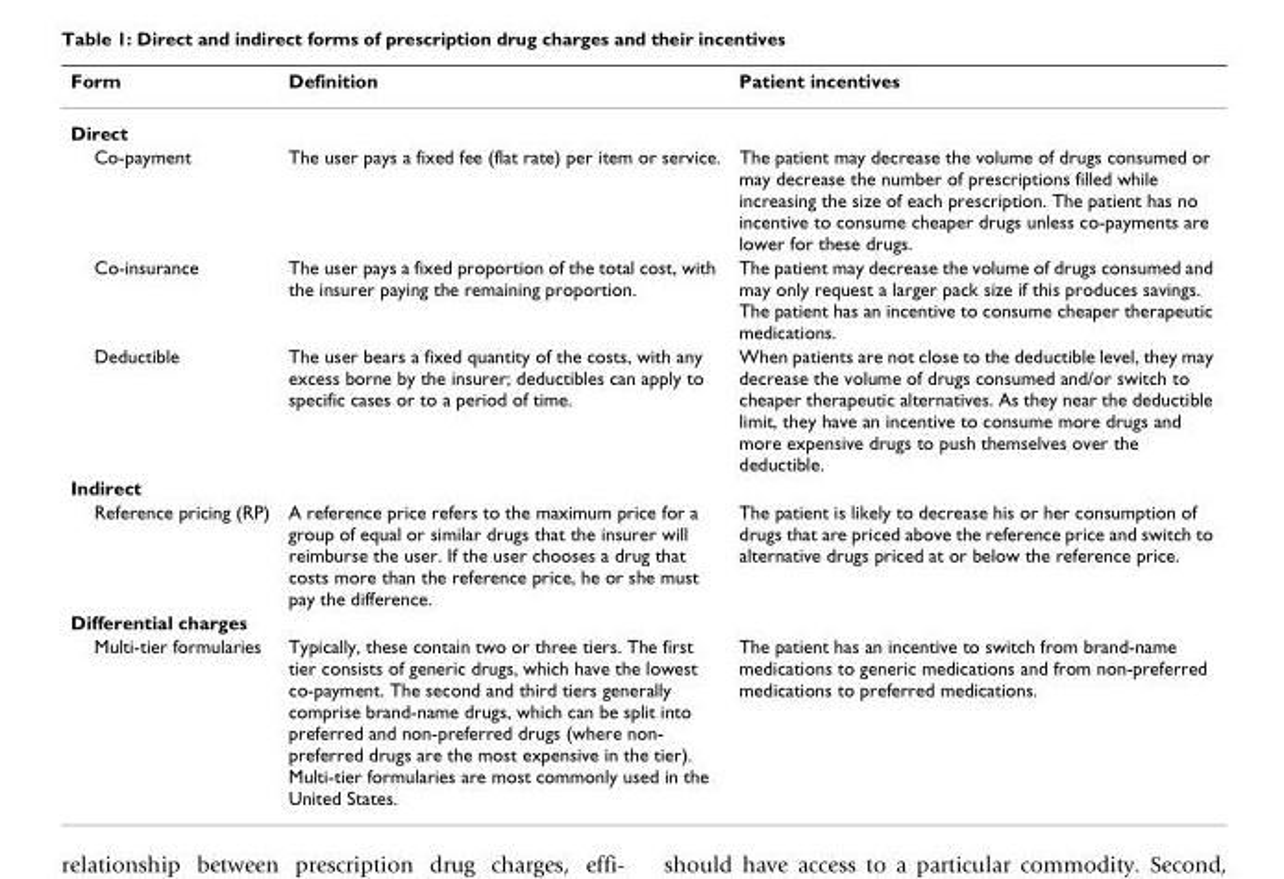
<table><thead><tr><td>Form</td><td>Definition</td><td>Patient incentives</td></tr></thead><tbody><tr><td colspan="3">Direct</td></tr><tr><td>Co-payment</td><td>The user pays a fixed fee (flat rate) per item or service.</td><td>The patient may decrease the volume of drugs consumed or may decrease the number of prescriptions filled while increasing the size of each prescription. The patient has no incentive to consume cheaper drugs unless co-payments are lower for these drugs.</td></tr><tr><td>Co-insurance</td><td>The user pays a fixed proportion of the total cost, with the insurer paying the remaining proportion.</td><td>The patient may decrease the volume of drugs consumed and may only request a larger pack size if this produces savings. The patient has an incentive to consume cheaper therapeutic medications.</td></tr><tr><td>Deductible</td><td>The user bears a fixed quantity of the costs, with any excess borne by the insurer; deductibles can apply to specific cases or to a period of time.</td><td>When patients are not close to the deductible level, they may decrease the volume of drugs consumed and/or switch to cheaper therapeutic alternatives. As they near the deductible limit, they have an incentive to consume more drugs and more expensive drugs to push themselves over the deductible.</td></tr><tr><td colspan="3">Indirect</td></tr><tr><td>Reference pricing (RP)</td><td>A reference price refers to the maximum price for a group of equal or similar drugs that the insurer will reimburse the user. If the user chooses a drug that costs more than the reference price, he or she must pay the difference.</td><td>The patient is likely to decrease his or her consumption of drugs that are priced above the reference price and switch to alternative drugs priced at or below the reference price.</td></tr><tr><td colspan="3">Differential charges</td></tr><tr><td>Multi-tier formularies</td><td>Typically, these contain two or three tiers. The first tier consists of generic drugs, which have the lowest co-payment. The second and third tiers generally comprise brand-name drugs, which can be split into preferred and non-preferred drugs (where non- preferred drugs are the most expensive in the tier). Multi-tier formularies are most commonly used in the United States.</td><td>The patient has an incentive to switch from brand-name medications to generic medications and from non-preferred medications to preferred medications.</td></tr></tbody></table>